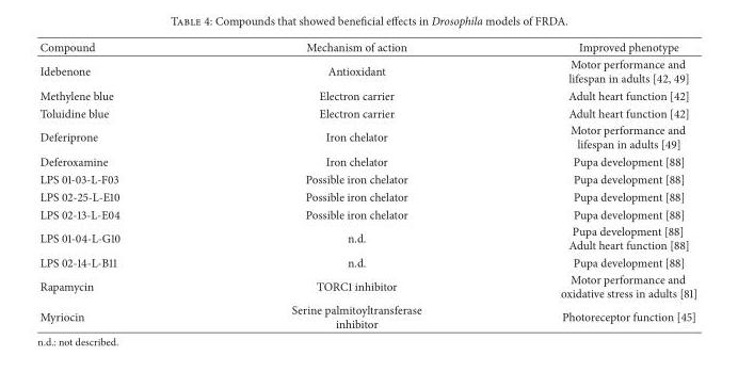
<table><thead><tr><td>Compound</td><td>Mechanism of action</td><td>Improved phenotype</td></tr></thead><tbody><tr><td>Idebenone</td><td>Antioxidant</td><td>Motor performance and lifespan in adults [42, 49]</td></tr><tr><td>Methylene blue</td><td>Electron carrier</td><td>Adult heart function [42]</td></tr><tr><td>Toluidine blue</td><td>Electron carrier</td><td>Adult heart function [42]</td></tr><tr><td>Deferiprone</td><td>Iron chelator</td><td>Motor performance and lifespan in adults [49]</td></tr><tr><td>Deferoxamine</td><td>Iron chelator</td><td>Pupa development [88]</td></tr><tr><td>LPS 01-03-L-F03</td><td>Possible iron chelator</td><td>Pupa development [88]</td></tr><tr><td>LPS 02-25-L-E10</td><td>Possible iron chelator</td><td>Pupa development [88]</td></tr><tr><td>LPS 02-13-L-E04</td><td>Possible iron chelator</td><td>Pupa development [88]</td></tr><tr><td>LPS 01-04-L-G10</td><td>n.d.</td><td>Pupa development [88] Adult heart function [88]</td></tr><tr><td>LPS 02-14-L-B11</td><td>n.d.</td><td>Pupa development [88]</td></tr><tr><td>Rapamycin</td><td>TORC1 inhibitor</td><td>Motor performance and oxidative stress in adults [81]</td></tr><tr><td>Myriocin</td><td>Serine palmitoyltransferase inhibitor</td><td>Photoreceptor function [45]</td></tr></tbody></table>